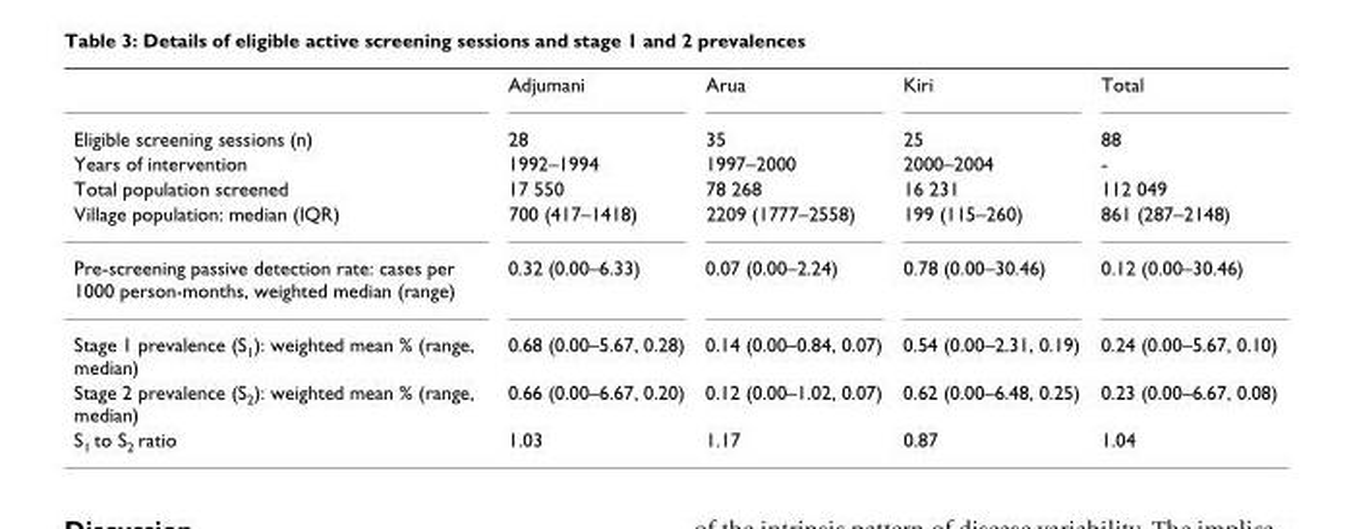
<table><thead><tr><td></td><td>Adjumani</td><td>Arua</td><td>Kiri</td><td>Total</td></tr></thead><tbody><tr><td>Eligible screening sessions (n)</td><td>28</td><td>35</td><td>25</td><td>88</td></tr><tr><td>Years of intervention</td><td>1992–1994</td><td>1997–2000</td><td>2000–2004</td><td>-</td></tr><tr><td>Total population screened</td><td>17 550</td><td>78 268</td><td>16 231</td><td>112 049</td></tr><tr><td>Village population: median (IQR)</td><td>700 (417–1418)</td><td>2209 (1777–2558)</td><td>199 (115–260)</td><td>861 (287–2148)</td></tr><tr><td>Pre-screening passive detection rate: cases per 1000 person-months, weighted median (range)</td><td>0.32 (0.00–6.33)</td><td>0.07 (0.00–2.24)</td><td>0.78 (0.00–30.46)</td><td>0.12 (0.00–30.46)</td></tr><tr><td>Stage 1 prevalence (S<sub>1</sub>): weighted mean % (range, median)</td><td>0.68 (0.00–5.67, 0.28)</td><td>0.14 (0.00–0.84, 0.07)</td><td>0.54 (0.00–2.31, 0.19)</td><td>0.24 (0.00–5.67, 0.10)</td></tr><tr><td>Stage 2 prevalence (S<sub>2</sub>): weighted mean % (range, median)</td><td>0.66 (0.00–6.67, 0.20)</td><td>0.12 (0.00–1.02, 0.07)</td><td>0.62 (0.00–6.48, 0.25)</td><td>0.23 (0.00–6.67, 0.08)</td></tr><tr><td>S<sub>1</sub> to S<sub>2</sub> ratio</td><td>1.03</td><td>1.17</td><td>0.87</td><td>1.04</td></tr></tbody></table>